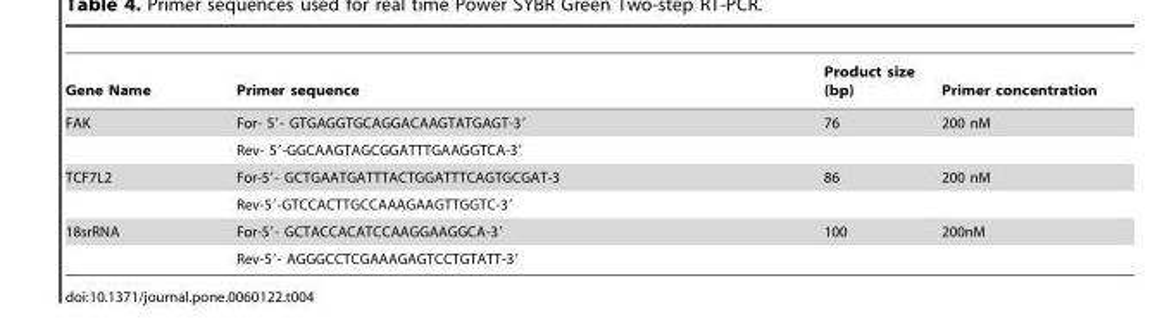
<table><thead><tr><td>Gene Name</td><td>Primer sequence</td><td>Product size (bp)</td><td>Primer concentration</td></tr></thead><tbody><tr><td rowspan="2">FAK</td><td>For- 5′- GTGAGGTGCAGGACAAGTATGAGT-3′</td><td>76</td><td>200 nM</td></tr><tr><td>Rev- 5′-GGCAAGTAGCGGATTTGAAGGTCA-3′</td><td colspan="2"></td></tr><tr><td rowspan="2">TCF7L2</td><td>For-5′- GCTGAATGATTTACTGGATTTCAGTGCGAT-3</td><td>86</td><td>200 nM</td></tr><tr><td>Rev-5′-GTCCACTTGCCAAAGAAGTTGGTC-3′</td><td></td><td></td></tr><tr><td rowspan="2">18srRNA</td><td>For-5′- GCTACCACATCCAAGGAAGGCA-3′</td><td>100</td><td>200nM</td></tr><tr><td>Rev-5′- AGGGCCTCGAAAGAGTCCTGTATT-3′</td><td colspan="2"></td></tr></tbody></table>